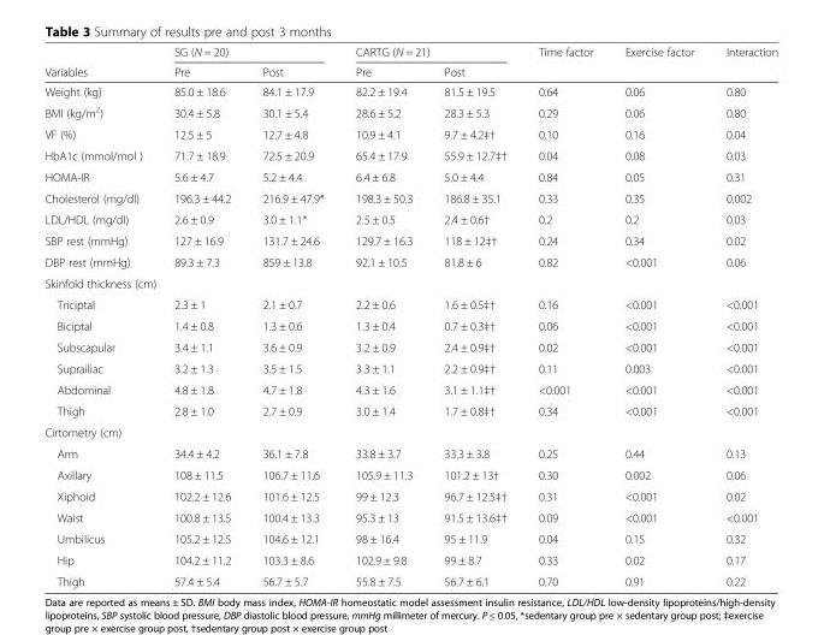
<table><thead><tr><td rowspan="2">Variables</td><td colspan="2">SG (N = 20)</td><td colspan="2">CARTG (N = 21)</td><td rowspan="2">Time factor</td><td rowspan="2">Exercise factor</td><td rowspan="2">Interaction</td></tr><tr><td>Pre</td><td>Post</td><td>Pre</td><td>Post</td></tr></thead><tbody><tr><td>Weight (kg)</td><td>85.0 ± 18.6</td><td>84.1 ± 17.9</td><td>82.2 ± 19.4</td><td>81.5 ± 19.5</td><td>0.64</td><td>0.06</td><td>0.80</td></tr><tr><td>BMI (kg/m2)</td><td>30.4 ± 5.8</td><td>30.1 ± 5.4</td><td>28.6 ± 5.2</td><td>28.3 ± 5.3</td><td>0.29</td><td>0.06</td><td>0.80</td></tr><tr><td>VF (%)</td><td>12.5 ± 5</td><td>12.7 ± 4.8</td><td>10.9 ± 4.1</td><td>9.7 ± 4.2‡†</td><td>0.10</td><td>0.16</td><td>0.04</td></tr><tr><td>HbA1c (mmol/mol )</td><td>71.7 ± 18.9</td><td>72.5 ± 20.9</td><td>65.4 ± 17.9</td><td>55.9 ± 12.7‡†</td><td>0.04</td><td>0.08</td><td>0.03</td></tr><tr><td>HOMA-IR</td><td>5.6 ± 4.7</td><td>5.2 ± 4.4</td><td>6.4 ± 6.8</td><td>5.0 ± 4.4</td><td>0.84</td><td>0.05</td><td>0.31</td></tr><tr><td>Cholesterol (mg/dl)</td><td>196.3 ± 44.2</td><td>216.9 ± 47.9*</td><td>198.3 ± 50.3</td><td>186.8 ± 35.1</td><td>0.33</td><td>0.35</td><td>0.002</td></tr><tr><td>LDL/HDL (mg/dl)</td><td>2.6 ± 0.9</td><td>3.0 ± 1.1*</td><td>2.5 ± 0.5</td><td>2.4 ± 0.6†</td><td>0.2</td><td>0.2</td><td>0.03</td></tr><tr><td>SBP rest (mmHg)</td><td>127 ± 16.9</td><td>131.7 ± 24.6</td><td>129.7 ± 16.3</td><td>118 ± 12‡†</td><td>0.24</td><td>0.34</td><td>0.02</td></tr><tr><td>DBP rest (mmHg)</td><td>89.3 ± 7.3</td><td>859 ± 13.8</td><td>92.1 ± 10.5</td><td>81.8 ± 6</td><td>0.82</td><td>&lt;0.001</td><td>0.06</td></tr><tr><td colspan="8">Skinfold thickness (cm)</td></tr><tr><td>Triciptal</td><td>2.3 ± 1</td><td>2.1 ± 0.7</td><td>2.2 ± 0.6</td><td>1.6 ± 0.5‡†</td><td>0.16</td><td>&lt;0.001</td><td>&lt;0.001</td></tr><tr><td>Biciptal</td><td>1.4 ± 0.8</td><td>1.3 ± 0.6</td><td>1.3 ± 0.4</td><td>0.7 ± 0.3‡†</td><td>0.06</td><td>&lt;0.001</td><td>&lt;0.001</td></tr><tr><td>Subscapular</td><td>3.4 ± 1.1</td><td>3.6 ± 0.9</td><td>3.2 ± 0.9</td><td>2.4 ± 0.9‡†</td><td>0.02</td><td>&lt;0.001</td><td>&lt;0.001</td></tr><tr><td>Suprailiac</td><td>3.2 ± 1.3</td><td>3.5 ± 1.5</td><td>3.3 ± 1.1</td><td>2.2 ± 0.9‡†</td><td>0.11</td><td>0.003</td><td>&lt;0.001</td></tr><tr><td>Abdominal</td><td>4.8 ± 1.8</td><td>4.7 ± 1.8</td><td>4.3 ± 1.6</td><td>3.1 ± 1.1‡†</td><td>&lt;0.001</td><td>&lt;0.001</td><td>&lt;0.001</td></tr><tr><td>Thigh</td><td>2.8 ± 1.0</td><td>2.7 ± 0.9</td><td>3.0 ± 1.4</td><td>1.7 ± 0.8‡†</td><td>0.34</td><td>&lt;0.001</td><td>&lt;0.001</td></tr><tr><td colspan="8">Cirtometry (cm)</td></tr><tr><td>Arm</td><td>34.4 ± 4.2</td><td>36.1 ± 7.8</td><td>33.8 ± 3.7</td><td>33.3 ± 3.8</td><td>0.25</td><td>0.44</td><td>0.13</td></tr><tr><td>Axillary</td><td>108 ± 11.5</td><td>106.7 ± 11.6</td><td>105.9 ± 11.3</td><td>101.2 ± 13†</td><td>0.30</td><td>0.002</td><td>0.06</td></tr><tr><td>Xiphoid</td><td>102.2 ± 12.6</td><td>101.6 ± 12.5</td><td>99 ± 12.3</td><td>96.7 ± 12.5‡†</td><td>0.31</td><td>&lt;0.001</td><td>0.02</td></tr><tr><td>Waist</td><td>100.8 ± 13.5</td><td>100.4 ± 13.3</td><td>95.3 ± 13</td><td>91.5 ± 13.6‡†</td><td>0.09</td><td>&lt;0.001</td><td>&lt;0.001</td></tr><tr><td>Umbilicus</td><td>105.2 ± 12.5</td><td>104.6 ± 12.1</td><td>98 ± 16.4</td><td>95 ± 11.9</td><td>0.04</td><td>0.15</td><td>0.32</td></tr><tr><td>Hip</td><td>104.2 ± 11.2</td><td>103.3 ± 8.6</td><td>102.9 ± 9.8</td><td>99 ± 8.7</td><td>0.33</td><td>0.02</td><td>0.17</td></tr><tr><td>Thigh</td><td>57.4 ± 5.4</td><td>56.7 ± 5.7</td><td>55.8 ± 7.5</td><td>56.7 ± 6.1</td><td>0.70</td><td>0.91</td><td>0.22</td></tr></tbody></table>